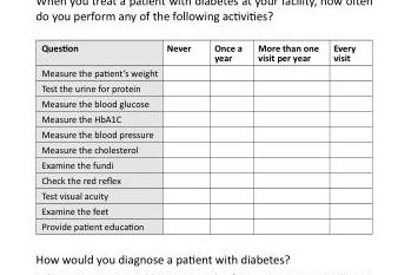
<table><thead><tr><td>Question</td><td>Never</td><td>Once a year</td><td>More than one visit per year</td><td>Every visit</td></tr></thead><tbody><tr><td colspan="5">Measure the patient’s weight</td></tr><tr><td colspan="5">Test the urine for protein</td></tr><tr><td colspan="5">Measure the blood glucose</td></tr><tr><td colspan="5">Measure the HbA1C</td></tr><tr><td colspan="5">Measure the blood pressure</td></tr><tr><td colspan="5">Measure the cholesterol</td></tr><tr><td colspan="5">Examine the fundi</td></tr><tr><td colspan="5">Check the red reflex</td></tr><tr><td colspan="5">Test visual acuity</td></tr><tr><td colspan="5">Examine the feet</td></tr><tr><td>Provide patient education</td><td></td><td></td><td></td><td></td></tr></tbody></table>